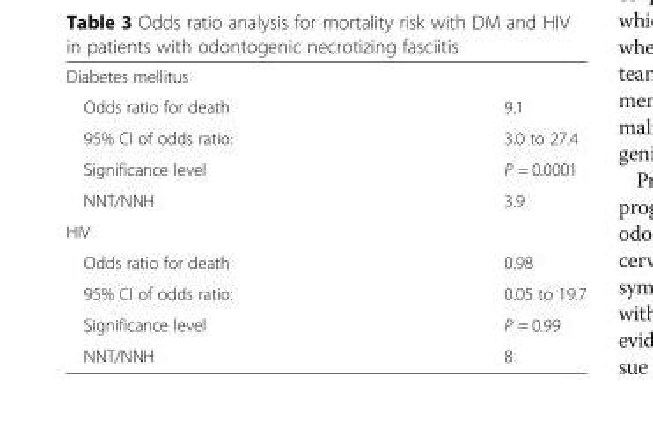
<table><tbody><tr><td colspan="2">Diabetes mellitus</td></tr><tr><td>Odds ratio for death</td><td>9.1</td></tr><tr><td>95% CI of odds ratio:</td><td>3.0 to 27.4</td></tr><tr><td>Significance level</td><td>P = 0.0001</td></tr><tr><td>NNT/NNH</td><td>3.9</td></tr><tr><td colspan="2">HIV</td></tr><tr><td>Odds ratio for death</td><td>0.98</td></tr><tr><td>95% CI of odds ratio:</td><td>0.05 to 19.7</td></tr><tr><td>Significance level</td><td>P = 0.99</td></tr><tr><td>NNT/NNH</td><td>8</td></tr></tbody></table>